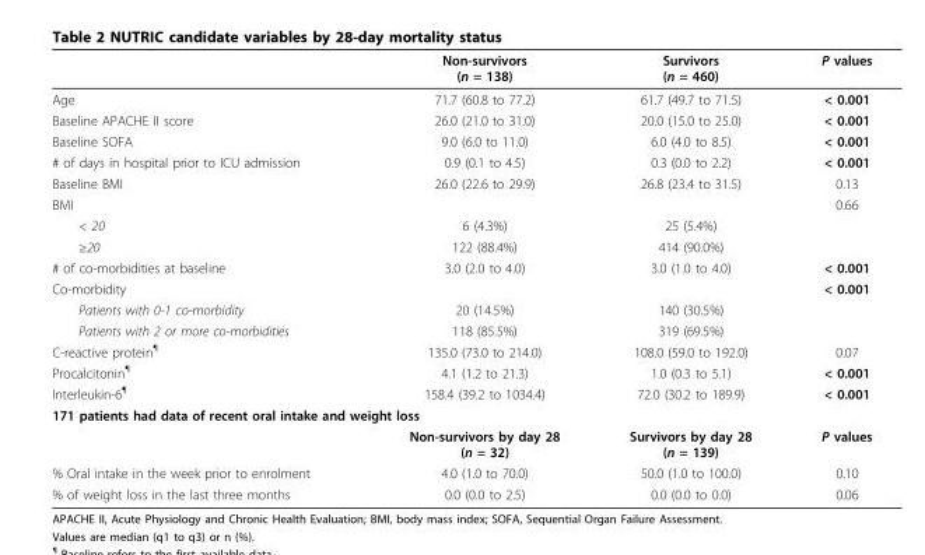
<table><thead><tr><td></td><td>Non-survivors (n = 138)</td><td>Survivors (n = 460)</td><td>P values</td></tr></thead><tbody><tr><td>Age</td><td>71.7 (60.8 to 77.2)</td><td>61.7 (49.7 to 71.5)</td><td>&lt; 0.001</td></tr><tr><td>Baseline APACHE II score</td><td>26.0 (21.0 to 31.0)</td><td>20.0 (15.0 to 25.0)</td><td>&lt; 0.001</td></tr><tr><td>Baseline SOFA</td><td>9.0 (6.0 to 11.0)</td><td>6.0 (4.0 to 8.5)</td><td>&lt; 0.001</td></tr><tr><td># of days in hospital prior to ICU admission</td><td>0.9 (0.1 to 4.5)</td><td>0.3 (0.0 to 2.2)</td><td>&lt; 0.001</td></tr><tr><td>Baseline BMI</td><td>26.0 (22.6 to 29.9)</td><td>26.8 (23.4 to 31.5)</td><td>0.13</td></tr><tr><td>BMI</td><td></td><td></td><td>0.66</td></tr><tr><td>&lt; 20</td><td>6 (4.3%)</td><td>25 (5.4%)</td><td></td></tr><tr><td>≥20</td><td>122 (88.4%)</td><td>414 (90.0%)</td><td></td></tr><tr><td># of co-morbidities at baseline</td><td>3.0 (2.0 to 4.0)</td><td>3.0 (1.0 to 4.0)</td><td>&lt; 0.001</td></tr><tr><td>Co-morbidity</td><td></td><td></td><td>&lt; 0.001</td></tr><tr><td>Patients with 0-1 co-morbidity</td><td>20 (14.5%)</td><td>140 (30.5%)</td><td></td></tr><tr><td>Patients with 2 or more co-morbidities</td><td>118 (85.5%)</td><td>319 (69.5%)</td><td></td></tr><tr><td>C-reactive protein<sup>¶</sup></td><td>135.0 (73.0 to 214.0)</td><td>108.0 (59.0 to 192.0)</td><td>0.07</td></tr><tr><td>Procalcitonin<sup>¶</sup></td><td>4.1 (1.2 to 21.3)</td><td>1.0 (0.3 to 5.1)</td><td>&lt; 0.001</td></tr><tr><td>Interleukin-6<sup>¶</sup></td><td>158.4 (39.2 to 1034.4)</td><td>72.0 (30.2 to 189.9)</td><td>&lt; 0.001</td></tr><tr><td colspan="4">171 patients had data of recent oral intake and weight loss</td></tr><tr><td></td><td>Non-survivors by day 28 (n = 32)</td><td>Survivors by day 28 (n = 139)</td><td>P values</td></tr><tr><td>% Oral intake in the week prior to enrolment</td><td>4.0 (1.0 to 70.0)</td><td>50.0 (1.0 to 100.0)</td><td>0.10</td></tr><tr><td>% of weight loss in the last three months</td><td>0.0 (0.0 to 2.5)</td><td>0.0 (0.0 to 0.0)</td><td>0.06</td></tr></tbody></table>